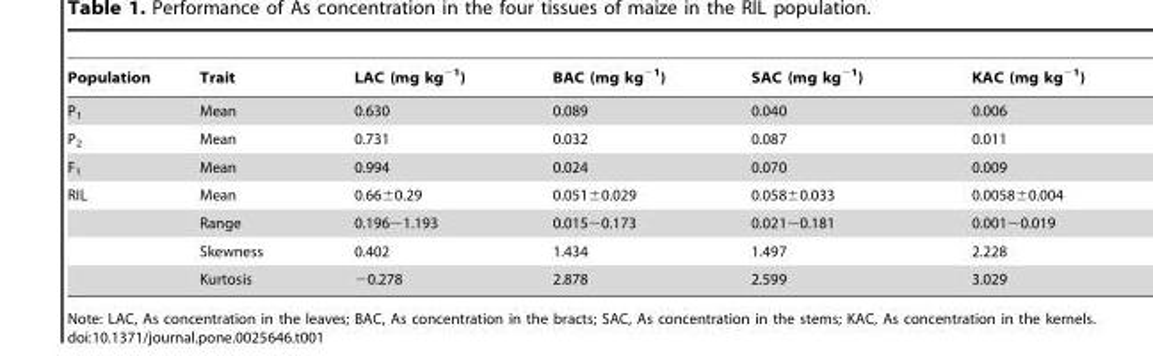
<table><thead><tr><td>Population</td><td>Trait</td><td>LAC (mg kg<sup>−1</sup>)</td><td>BAC (mg kg<sup>−1</sup>)</td><td>SAC (mg kg<sup>−1</sup>)</td><td>KAC (mg kg<sup>−1</sup>)</td></tr></thead><tbody><tr><td>P<sub>1</sub></td><td>Mean</td><td>0.630</td><td>0.089</td><td>0.040</td><td>0.006</td></tr><tr><td>P<sub>2</sub></td><td>Mean</td><td>0.731</td><td>0.032</td><td>0.087</td><td>0.011</td></tr><tr><td>F<sub>1</sub></td><td>Mean</td><td>0.994</td><td>0.024</td><td>0.070</td><td>0.009</td></tr><tr><td rowspan="4">RIL</td><td>Mean</td><td>0.66±0.29</td><td>0.051±0.029</td><td>0.058±0.033</td><td>0.0058±0.004</td></tr><tr><td>Range</td><td>0.196∼1.193</td><td>0.015∼0.173</td><td>0.021∼0.181</td><td>0.001∼0.019</td></tr><tr><td>Skewness</td><td>0.402</td><td>1.434</td><td>1.497</td><td>2.228</td></tr><tr><td>Kurtosis</td><td>−0.278</td><td>2.878</td><td>2.599</td><td>3.029</td></tr></tbody></table>